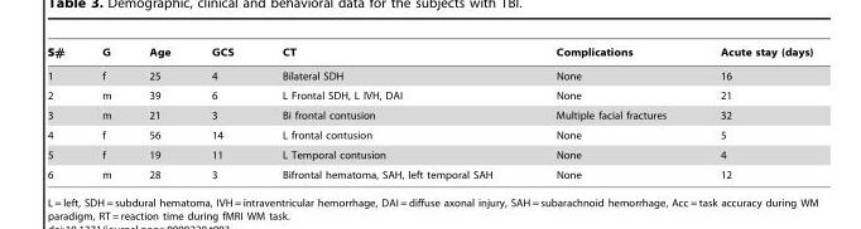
<table><thead><tr><td>S#</td><td>G</td><td>Age</td><td>GCS</td><td>CT</td><td>Complications</td><td>Acute stay (days)</td></tr></thead><tbody><tr><td>1</td><td>f</td><td>25</td><td>4</td><td>Bilateral SDH</td><td>None</td><td>16</td></tr><tr><td>2</td><td>m</td><td>39</td><td>6</td><td>L Frontal SDH, L IVH, DAI</td><td>None</td><td>21</td></tr><tr><td>3</td><td>m</td><td>21</td><td>3</td><td>Bi frontal contusion</td><td>Multiple facial fractures</td><td>32</td></tr><tr><td>4</td><td>f</td><td>56</td><td>14</td><td>L frontal contusion</td><td>None</td><td>5</td></tr><tr><td>5</td><td>f</td><td>19</td><td>11</td><td>L Temporal contusion</td><td>None</td><td>4</td></tr><tr><td>6</td><td>m</td><td>28</td><td>3</td><td>Bifrontal hematoma, SAH, left temporal SAH</td><td>None</td><td>12</td></tr></tbody></table>